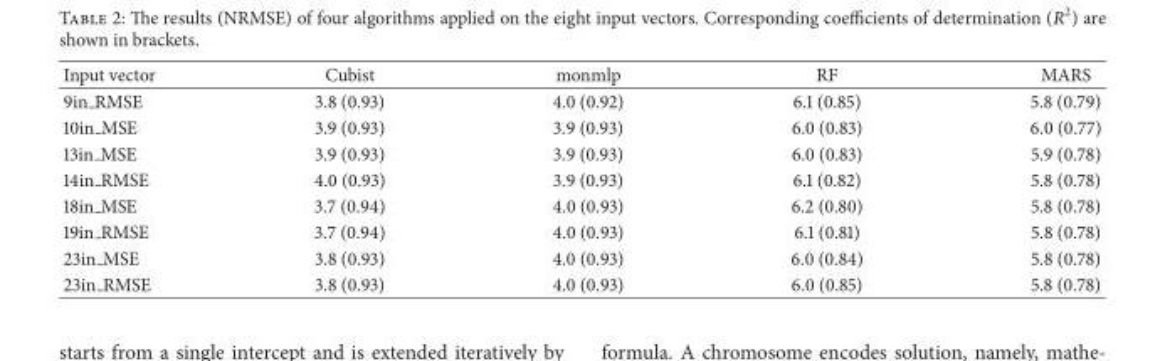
<table><thead><tr><td>Input vector</td><td>Cubist</td><td>monmlp</td><td>RF</td><td>MARS</td></tr></thead><tbody><tr><td>9in RMSE</td><td>3.8 (0.93)</td><td>4.0 (0.92)</td><td>6.1 (0.85)</td><td>5.8 (0.79)</td></tr><tr><td>10in MSE</td><td>3.9 (0.93)</td><td>3.9 (0.93)</td><td>6.0 (0.83)</td><td>6.0 (0.77)</td></tr><tr><td>13in MSE</td><td>3.9 (0.93)</td><td>3.9 (0.93)</td><td>6.0 (0.83)</td><td>5.9 (0.78)</td></tr><tr><td>14in RMSE</td><td>4.0 (0.93)</td><td>3.9 (0.93)</td><td>6.1 (0.82)</td><td>5.8 (0.78)</td></tr><tr><td>18in MSE</td><td>3.7 (0.94)</td><td>4.0 (0.93)</td><td>6.2 (0.80)</td><td>5.8 (0.78)</td></tr><tr><td>19in RMSE</td><td>3.7 (0.94)</td><td>4.0 (0.93)</td><td>6.1 (0.81)</td><td>5.8 (0.78)</td></tr><tr><td>23in MSE</td><td>3.8 (0.93)</td><td>4.0 (0.93)</td><td>6.0 (0.84)</td><td>5.8 (0.78)</td></tr><tr><td>23in RMSE</td><td>3.8 (0.93)</td><td>4.0 (0.93)</td><td>6.0 (0.85)</td><td>5.8 (0.78)</td></tr></tbody></table>